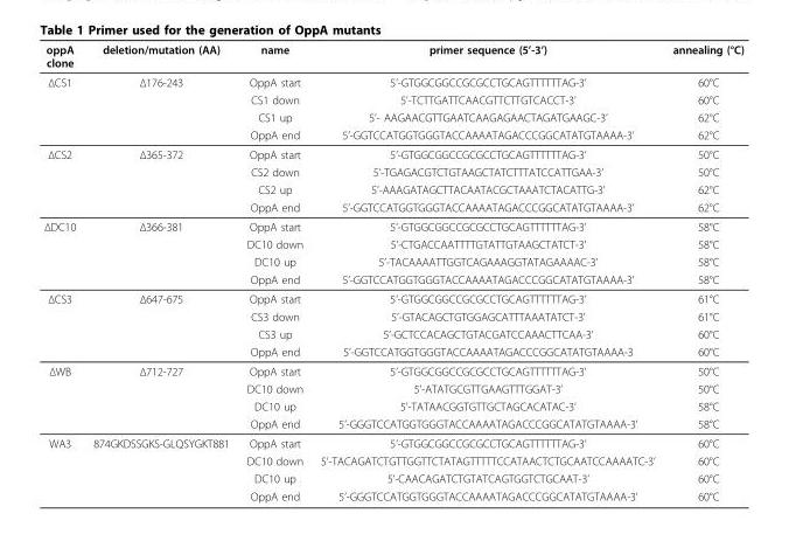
<table><thead><tr><td>oppA clone</td><td>deletion/mutation (AA)</td><td>name</td><td>primer sequence (5’-3’)</td><td>annealing (°C)</td></tr></thead><tbody><tr><td rowspan="4">ΔCS1</td><td>Δ176-243</td><td>OppA start</td><td>5’-GTGGCGGCCGCGCCTGCAGTTTTTTAG-3’</td><td>60°C</td></tr><tr><td></td><td>CS1 down</td><td>5’-TCTTGATTCAACGTTCTTGTCACCT-3’</td><td>60°C</td></tr><tr><td></td><td>CS1 up</td><td>5’- AAGAACGTTGAATCAAGAGAACTAGATGAAGC-3’</td><td>62°C</td></tr><tr><td></td><td>OppA end</td><td>5’-GGTCCATGGTGGGTACCAAAATAGACCCGGCATATGTAAAA-3’</td><td>62°C</td></tr><tr><td rowspan="4">ΔCS2</td><td>Δ365-372</td><td>OppA start</td><td>5’-GTGGCGGCCGCGCCTGCAGTTTTTTAG-3’</td><td>50°C</td></tr><tr><td></td><td>CS2 down</td><td>5’-TGAGACGTCTGTAAGCTATCTTTATCCATTGAA-3’</td><td>50°C</td></tr><tr><td></td><td>CS2 up</td><td>5’-AAAGATAGCTTACAATACGCTAAATCTACATTG-3’</td><td>62°C</td></tr><tr><td></td><td>OppA end</td><td>5’-GGTCCATGGTGGGTACCAAAATAGACCCGGCATATGTAAAA-3’</td><td>62°C</td></tr><tr><td rowspan="4">ΔDC10</td><td>Δ366-381</td><td>OppA start</td><td>5’-GTGGCGGCCGCGCCTGCAGTTTTTTAG-3’</td><td>58°C</td></tr><tr><td></td><td>DC10 down</td><td>5’-CTGACCAATTTTGTATTGTAAGCTATCT-3’</td><td>58°C</td></tr><tr><td></td><td>DC10 up</td><td>5’-TACAAAATTGGTCAGAAAGGTATAGAAAAC-3’</td><td>58°C</td></tr><tr><td></td><td>OppA end</td><td>5’-GGTCCATGGTGGGTACCAAAATAGACCCGGCATATGTAAAA-3’</td><td>58°C</td></tr><tr><td rowspan="4">ΔCS3</td><td>Δ647-675</td><td>OppA start</td><td>5’-GTGGCGGCCGCGCCTGCAGTTTTTTAG-3’</td><td>61°C</td></tr><tr><td></td><td>CS3 down</td><td>5’-GTACAGCTGTGGAGCATTTAAATATCT-3’</td><td>61°C</td></tr><tr><td></td><td>CS3 up</td><td>5’-GCTCCACAGCTGTACGATCCAAACTTCAA-3’</td><td>60°C</td></tr><tr><td></td><td>OppA end</td><td>5’-GGTCCATGGTGGGTACCAAAATAGACCCGGCATATGTAAAA-3</td><td>60°C</td></tr><tr><td rowspan="4">ΔWB</td><td>Δ712-727</td><td>OppA start</td><td>5’-GTGGCGGCCGCGCCTGCAGTTTTTTAG-3’</td><td>50°C</td></tr><tr><td></td><td>DC10 down</td><td>5’-ATATGCGTTGAAGTTTGGAT-3’</td><td>50°C</td></tr><tr><td></td><td>DC10 up</td><td>5’-TATAACGGTGTTGCTAGCACATAC-3’</td><td>58°C</td></tr><tr><td></td><td>OppA end</td><td>5’-GGGTCCATGGTGGGTACCAAAATAGACCCGGCATATGTAAAA-3’</td><td>58°C</td></tr><tr><td rowspan="4">WA3</td><td>874GKDSSGKS-GLQSYGKT881</td><td>OppA start</td><td>5’-GTGGCGGCCGCGCCTGCAGTTTTTTAG-3’</td><td>60°C</td></tr><tr><td></td><td>DC10 down</td><td>5’-TACAGATCTGTTGGTTCTATAGTTTTTCCATAACTCTGCAATCCAAAATC-3’</td><td>60°C</td></tr><tr><td></td><td>DC10 up</td><td>5’-CAACAGATCTGTATCAGTGGTCTGCAAT-3’</td><td>60°C</td></tr><tr><td></td><td>OppA end</td><td>5’-GGGTCCATGGTGGGTACCAAAATAGACCCGGCATATGTAAAA-3’</td><td>60°C</td></tr></tbody></table>